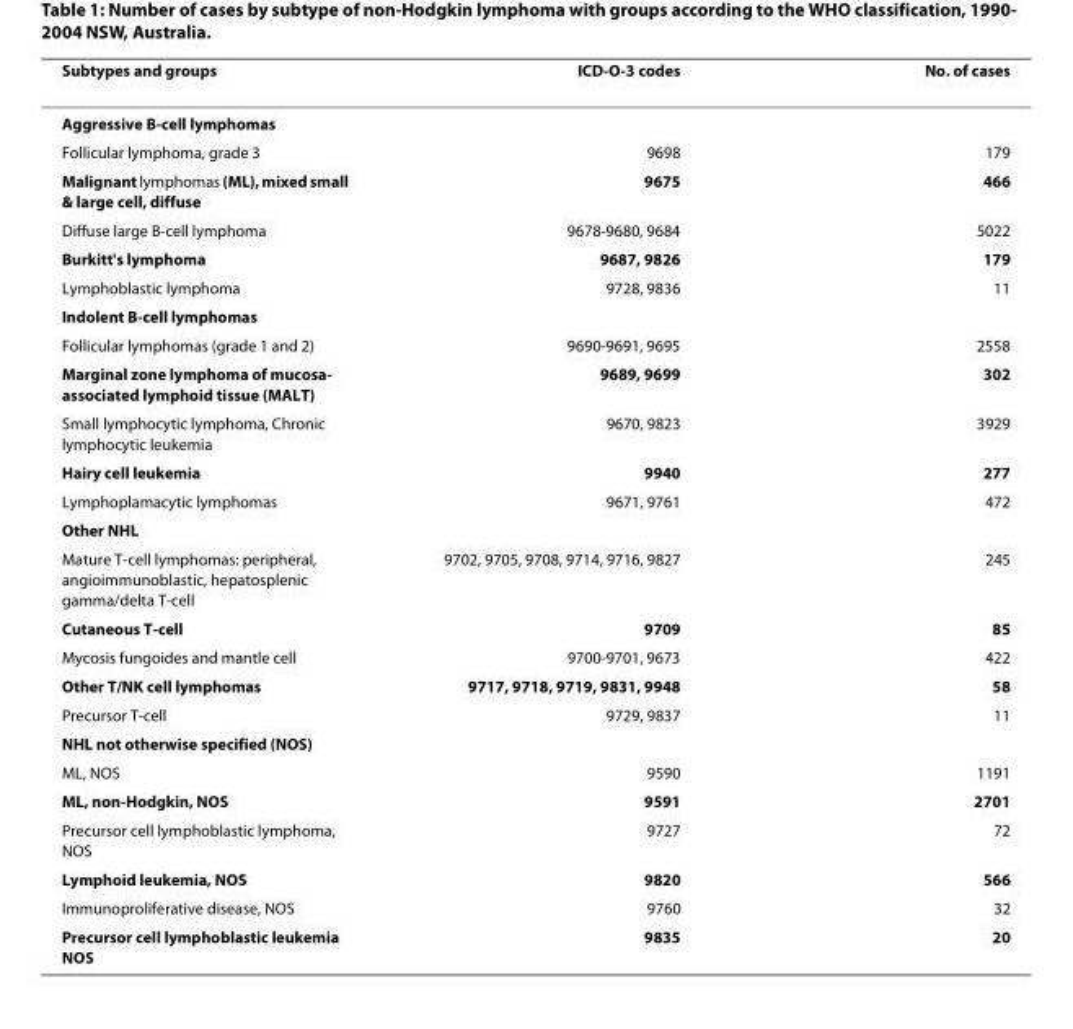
<table><thead><tr><td>Subtypes and groups</td><td>ICD-O-3 codes</td><td>No. of cases</td></tr></thead><tbody><tr><td colspan="3">Aggressive B-cell lymphomas</td></tr><tr><td>Follicular lymphoma, grade 3</td><td>9698</td><td>179</td></tr><tr><td>Malignant lymphomas (ML), mixed small &amp; large cell, diffuse</td><td>9675</td><td>466</td></tr><tr><td>Diffuse large B-cell lymphoma</td><td>9678-9680, 9684</td><td>5022</td></tr><tr><td>Burkitt&#x27;s lymphoma</td><td>9687, 9826</td><td>179</td></tr><tr><td>Lymphoblastic lymphoma</td><td>9728, 9836</td><td>11</td></tr><tr><td colspan="3">Indolent B-cell lymphomas</td></tr><tr><td>Follicular lymphomas (grade 1 and 2)</td><td>9690-9691, 9695</td><td>2558</td></tr><tr><td>Marginal zone lymphoma of mucosa- associated lymphoid tissue (MALT)</td><td>9689, 9699</td><td>302</td></tr><tr><td>Small lymphocytic lymphoma, Chronic lymphocytic leukemia</td><td>9670, 9823</td><td>3929</td></tr><tr><td>Hairy cell leukemia</td><td>9940</td><td>277</td></tr><tr><td>Lymphoplamacytic lymphomas</td><td>9671, 9761</td><td>472</td></tr><tr><td colspan="3">Other NHL</td></tr><tr><td>Mature T-cell lymphomas: peripheral, angioimmunoblastic, hepatosplenic gamma/delta T-cell</td><td>9702, 9705, 9708, 9714, 9716, 9827</td><td>245</td></tr><tr><td>Cutaneous T-cell</td><td>9709</td><td>85</td></tr><tr><td>Mycosis fungoides and mantle cell</td><td>9700-9701, 9673</td><td>422</td></tr><tr><td>Other T/NK cell lymphomas</td><td>9717, 9718, 9719, 9831, 9948</td><td>58</td></tr><tr><td>Precursor T-cell</td><td>9729, 9837</td><td>11</td></tr><tr><td colspan="3">NHL not otherwise specified (NOS)</td></tr><tr><td>ML, NOS</td><td>9590</td><td>1191</td></tr><tr><td>ML, non-Hodgkin, NOS</td><td>9591</td><td>2701</td></tr><tr><td>Precursor cell lymphoblastic lymphoma, NOS</td><td>9727</td><td>72</td></tr><tr><td>Lymphoid leukemia, NOS</td><td>9820</td><td>566</td></tr><tr><td>Immunoproliferative disease, NOS</td><td>9760</td><td>32</td></tr><tr><td>Precursor cell lymphoblastic leukemia NOS</td><td>9835</td><td>20</td></tr></tbody></table>